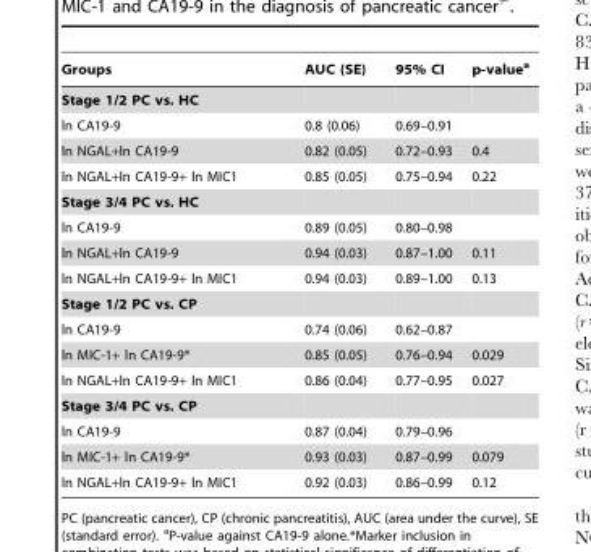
<table><thead><tr><td>Groups</td><td>AUC (SE)</td><td>95% CI</td><td>p-value<sup>a</sup></td></tr></thead><tbody><tr><td colspan="4">Stage 1/2 PC vs. HC</td></tr><tr><td>ln CA19-9</td><td>0.8 (0.06)</td><td>0.69–0.91</td><td></td></tr><tr><td>ln NGAL+ln CA19-9</td><td>0.82 (0.05)</td><td>0.72–0.93</td><td>0.4</td></tr><tr><td>ln NGAL+ln CA19-9+ ln MIC1</td><td>0.85 (0.05)</td><td>0.75–0.94</td><td>0.22</td></tr><tr><td colspan="4">Stage 3/4 PC vs. HC</td></tr><tr><td>ln CA19-9</td><td>0.89 (0.05)</td><td>0.80–0.98</td><td></td></tr><tr><td>ln NGAL+ln CA19-9</td><td>0.94 (0.03)</td><td>0.87–1.00</td><td>0.11</td></tr><tr><td>ln NGAL+ln CA19-9+ ln MIC1</td><td>0.94 (0.03)</td><td>0.89–1.00</td><td>0.13</td></tr><tr><td colspan="4">Stage 1/2 PC vs. CP</td></tr><tr><td>ln CA19-9</td><td>0.74 (0.06)</td><td>0.62–0.87</td><td></td></tr><tr><td>ln MIC-1+ ln CA19-9*</td><td>0.85 (0.05)</td><td>0.76–0.94</td><td>0.029</td></tr><tr><td>ln NGAL+ln CA19-9+ ln MIC1</td><td>0.86 (0.04)</td><td>0.77–0.95</td><td>0.027</td></tr><tr><td colspan="4">Stage 3/4 PC vs. CP</td></tr><tr><td>ln CA19-9</td><td>0.87 (0.04)</td><td>0.79–0.96</td><td></td></tr><tr><td>ln MIC-1+ ln CA19-9*</td><td>0.93 (0.03)</td><td>0.87–0.99</td><td>0.079</td></tr><tr><td>ln NGAL+ln CA19-9+ ln MIC1</td><td>0.92 (0.03)</td><td>0.86–0.99</td><td>0.12</td></tr></tbody></table>